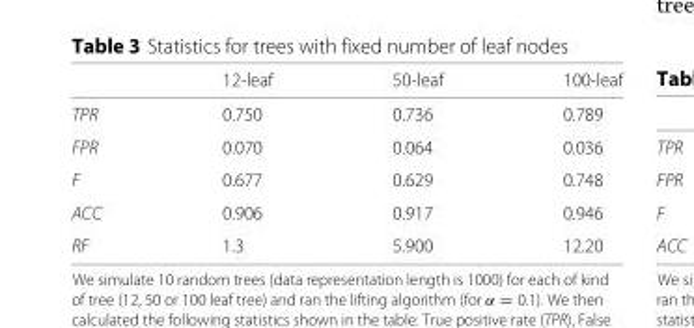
<table><thead><tr><td></td><td>12-leaf</td><td>50-leaf</td><td>100-leaf</td></tr></thead><tbody><tr><td>TPR</td><td>0.750</td><td>0.736</td><td>0.789</td></tr><tr><td>FPR</td><td>0.070</td><td>0.064</td><td>0.036</td></tr><tr><td>F</td><td>0.677</td><td>0.629</td><td>0.748</td></tr><tr><td>ACC</td><td>0.906</td><td>0.917</td><td>0.946</td></tr><tr><td>RF</td><td>1.3</td><td>5.900</td><td>12.20</td></tr></tbody></table>